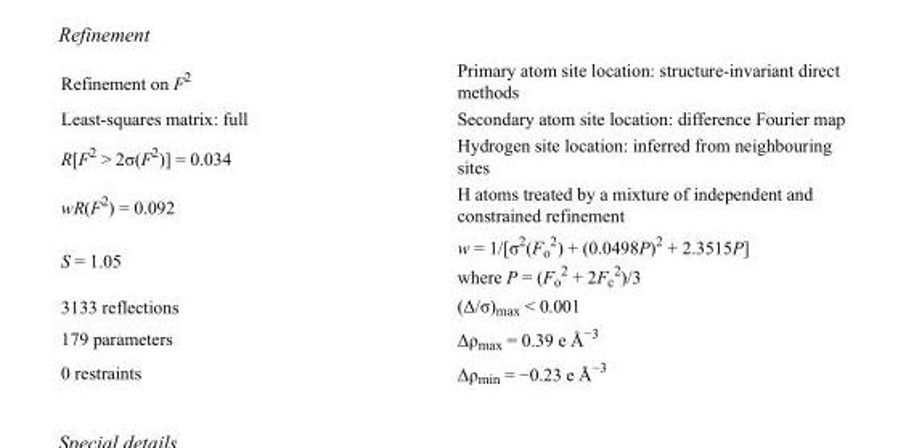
<table><tbody><tr><td>Refinement on F<sup>2</sup></td><td>Primary atom site location: structure-invariant direct methods</td></tr><tr><td>Least-squares matrix: full</td><td>Secondary atom site location: difference Fourier map</td></tr><tr><td>R[F<sup>2</sup> &gt; 2σ(F<sup>2</sup>)] = 0.034</td><td>Hydrogen site location: inferred from neighbouring sites</td></tr><tr><td>wR(F<sup>2</sup>) = 0.092</td><td>H atoms treated by a mixture of independent and constrained refinement</td></tr><tr><td>S = 1.05</td><td>w = 1/[σ<sup>2</sup>(F<sub>o</sub> <sup>2</sup>) + (0.0498P)<sup>2</sup> + 2.3515P] where P = (F<sub>o</sub> <sup>2</sup> + 2F<sub>c</sub> <sup>2</sup>)/3</td></tr><tr><td>3133 reflections</td><td>(Δ/σ)<sub>max</sub> &lt; 0.001</td></tr><tr><td>179 parameters</td><td>Δρ<sub>max</sub> = 0.39 e Å<sup>−3</sup></td></tr><tr><td>0 restraints</td><td>Δρ<sub>min</sub> = −0.23 e Å<sup>−3</sup></td></tr></tbody></table>